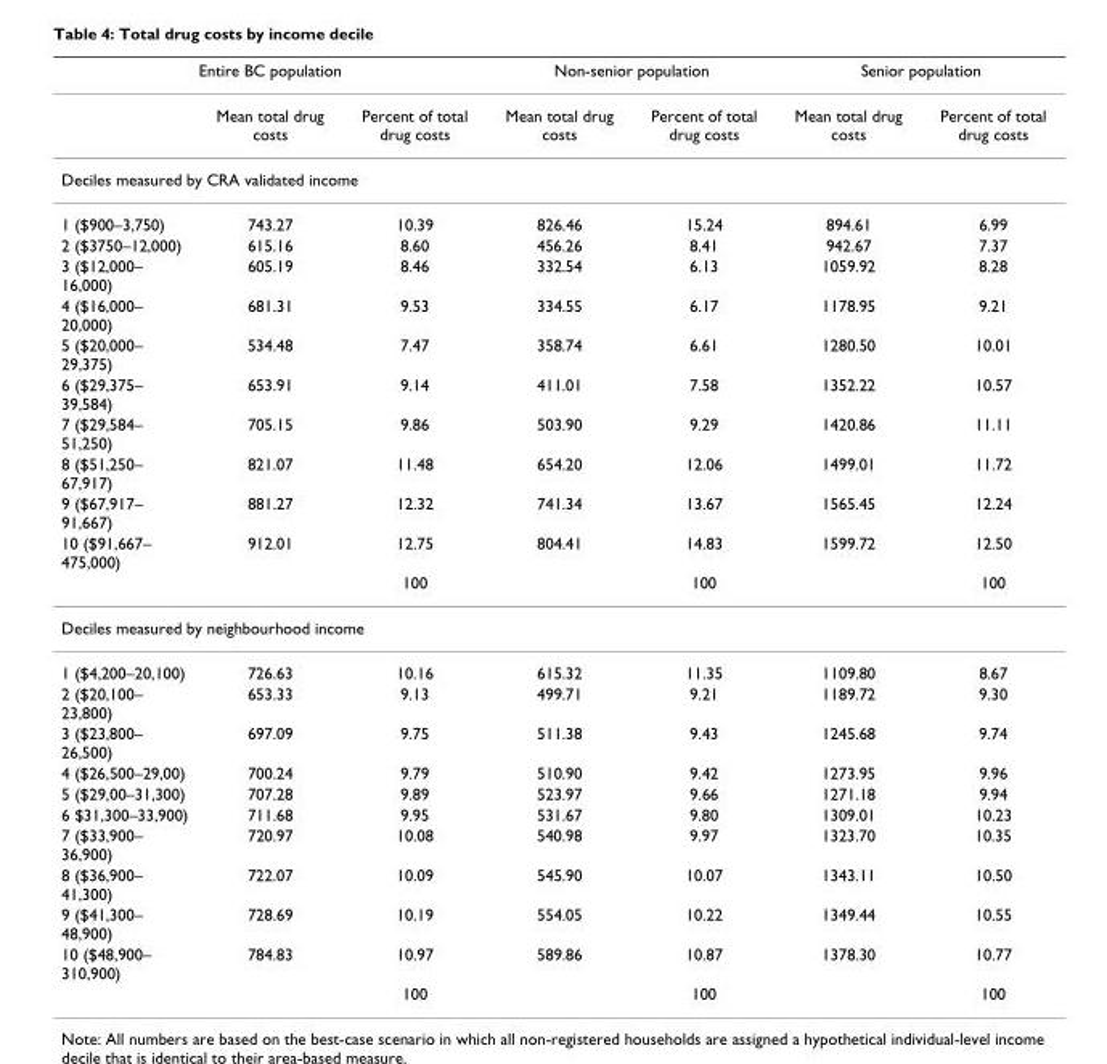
<table><thead><tr><td colspan="3">Entire BC population</td><td colspan="2">Non-senior population</td><td colspan="2">Senior population</td></tr><tr><td></td><td>Mean total drug costs</td><td>Percent of total drug costs</td><td>Mean total drug costs</td><td>Percent of total drug costs</td><td>Mean total drug costs</td><td>Percent of total drug costs</td></tr></thead><tbody><tr><td colspan="7">Deciles measured by CRA validated income</td></tr><tr><td>1 ($900–3,750)</td><td>743.27</td><td>10.39</td><td>826.46</td><td>15.24</td><td>894.61</td><td>6.99</td></tr><tr><td>2 ($3750–12,000)</td><td>615.16</td><td>8.60</td><td>456.26</td><td>8.41</td><td>942.67</td><td>7.37</td></tr><tr><td>3 ($12,000– 16,000)</td><td>605.19</td><td>8.46</td><td>332.54</td><td>6.13</td><td>1059.92</td><td>8.28</td></tr><tr><td>4 ($16,000– 20,000)</td><td>681.31</td><td>9.53</td><td>334.55</td><td>6.17</td><td>1178.95</td><td>9.21</td></tr><tr><td>5 ($20,000– 29,375)</td><td>534.48</td><td>7.47</td><td>358.74</td><td>6.61</td><td>1280.50</td><td>10.01</td></tr><tr><td>6 ($29,375– 39,584)</td><td>653.91</td><td>9.14</td><td>411.01</td><td>7.58</td><td>1352.22</td><td>10.57</td></tr><tr><td>7 ($29,584– 51,250)</td><td>705.15</td><td>9.86</td><td>503.90</td><td>9.29</td><td>1420.86</td><td>11.11</td></tr><tr><td>8 ($51,250– 67,917)</td><td>821.07</td><td>11.48</td><td>654.20</td><td>12.06</td><td>1499.01</td><td>11.72</td></tr><tr><td>9 ($67,917– 91,667)</td><td>881.27</td><td>12.32</td><td>741.34</td><td>13.67</td><td>1565.45</td><td>12.24</td></tr><tr><td rowspan="2">10 ($91,667– 475,000)</td><td>912.01</td><td>12.75</td><td>804.41</td><td>14.83</td><td>1599.72</td><td>12.50</td></tr><tr><td></td><td>100</td><td></td><td>100</td><td></td><td>100</td></tr><tr><td colspan="7">Deciles measured by neighbourhood income</td></tr><tr><td>1 ($4,200–20,100)</td><td>726.63</td><td>10.16</td><td>615.32</td><td>11.35</td><td>1109.80</td><td>8.67</td></tr><tr><td>2 ($20,100– 23,800)</td><td>653.33</td><td>9.13</td><td>499.71</td><td>9.21</td><td>1189.72</td><td>9.30</td></tr><tr><td>3 ($23,800– 26,500)</td><td>697.09</td><td>9.75</td><td>511.38</td><td>9.43</td><td>1245.68</td><td>9.74</td></tr><tr><td>4 ($26,500–29,00)</td><td>700.24</td><td>9.79</td><td>510.90</td><td>9.42</td><td>1273.95</td><td>9.96</td></tr><tr><td>5 ($29,00–31,300)</td><td>707.28</td><td>9.89</td><td>523.97</td><td>9.66</td><td>1271.18</td><td>9.94</td></tr><tr><td>6 $31,300–33,900)</td><td>711.68</td><td>9.95</td><td>531.67</td><td>9.80</td><td>1309.01</td><td>10.23</td></tr><tr><td>7 ($33,900– 36,900)</td><td>720.97</td><td>10.08</td><td>540.98</td><td>9.97</td><td>1323.70</td><td>10.35</td></tr><tr><td>8 ($36,900– 41,300)</td><td>722.07</td><td>10.09</td><td>545.90</td><td>10.07</td><td>1343.11</td><td>10.50</td></tr><tr><td>9 ($41,300– 48,900)</td><td>728.69</td><td>10.19</td><td>554.05</td><td>10.22</td><td>1349.44</td><td>10.55</td></tr><tr><td rowspan="2">10 ($48,900– 310,900)</td><td>784.83</td><td>10.97</td><td>589.86</td><td>10.87</td><td>1378.30</td><td>10.77</td></tr><tr><td></td><td>100</td><td></td><td>100</td><td></td><td>100</td></tr></tbody></table>